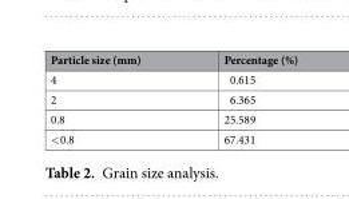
<table><thead><tr><td>Particle size (mm)</td><td>Percentage (%)</td></tr></thead><tbody><tr><td>4</td><td>0.615</td></tr><tr><td>2</td><td>6.365</td></tr><tr><td>0.8</td><td>25.589</td></tr><tr><td>&lt;0.8</td><td>67.431</td></tr></tbody></table>